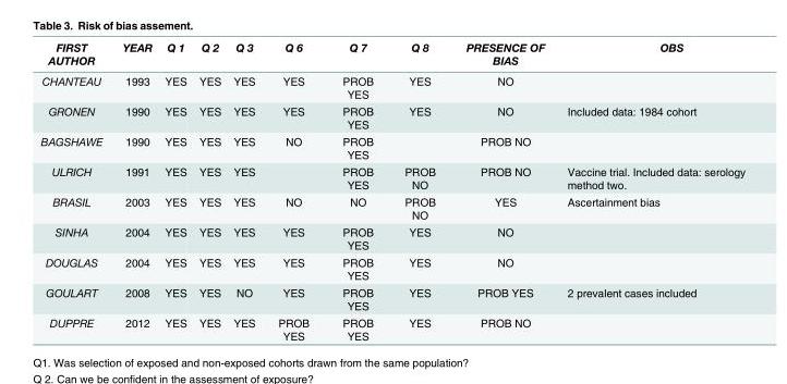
<table><thead><tr><td>FIRST AUTHOR</td><td>YEAR</td><td>Q 1</td><td>Q 2</td><td>Q 3</td><td>Q 6</td><td>Q 7</td><td>Q 8</td><td>PRESENCE OF BIAS</td><td>OBS</td></tr></thead><tbody><tr><td>CHANTEAU</td><td>1993</td><td>YES</td><td>YES</td><td>YES</td><td>YES</td><td>PROB YES</td><td>YES</td><td>NO</td><td></td></tr><tr><td>GRONEN</td><td>1990</td><td>YES</td><td>YES</td><td>YES</td><td>YES</td><td>PROB YES</td><td>YES</td><td>NO</td><td>Included data: 1984 cohort</td></tr><tr><td>BAGSHAWE</td><td>1990</td><td>YES</td><td>YES</td><td>YES</td><td>NO</td><td>PROB YES</td><td></td><td>PROB NO</td><td></td></tr><tr><td>ULRICH</td><td>1991</td><td>YES</td><td>YES</td><td>YES</td><td></td><td>PROB YES</td><td>PROB NO</td><td>PROB NO</td><td>Vaccine trial. Included data: serology method two.</td></tr><tr><td>BRASIL</td><td>2003</td><td>YES</td><td>YES</td><td>YES</td><td>NO</td><td>NO</td><td>PROB NO</td><td>YES</td><td>Ascertainment bias</td></tr><tr><td>SINHA</td><td>2004</td><td>YES</td><td>YES</td><td>YES</td><td>YES</td><td>PROB YES</td><td>YES</td><td>NO</td><td></td></tr><tr><td>DOUGLAS</td><td>2004</td><td>YES</td><td>YES</td><td>YES</td><td>YES</td><td>PROB YES</td><td>YES</td><td>NO</td><td></td></tr><tr><td>GOULART</td><td>2008</td><td>YES</td><td>YES</td><td>NO</td><td>YES</td><td>PROB YES</td><td>YES</td><td>PROB YES</td><td>2 prevalent cases included</td></tr><tr><td>DUPPRE</td><td>2012</td><td>YES</td><td>YES</td><td>YES</td><td>PROB YES</td><td>PROB YES</td><td>YES</td><td>PROB NO</td><td></td></tr></tbody></table>